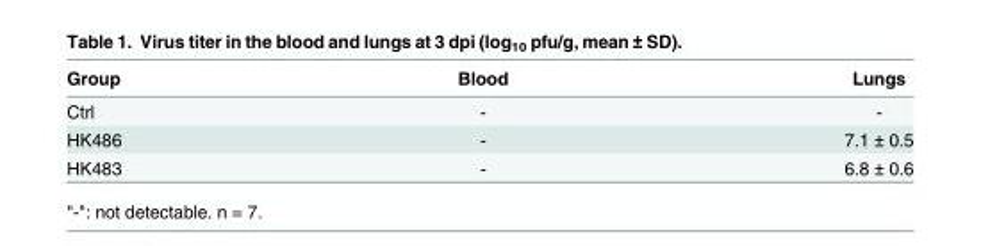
<table><thead><tr><td>Group</td><td>Blood</td><td>Lungs</td></tr></thead><tbody><tr><td>Ctrl</td><td>-</td><td>-</td></tr><tr><td>HK486</td><td>-</td><td>7.1 ± 0.5</td></tr><tr><td>HK483</td><td>-</td><td>6.8 ± 0.6</td></tr></tbody></table>